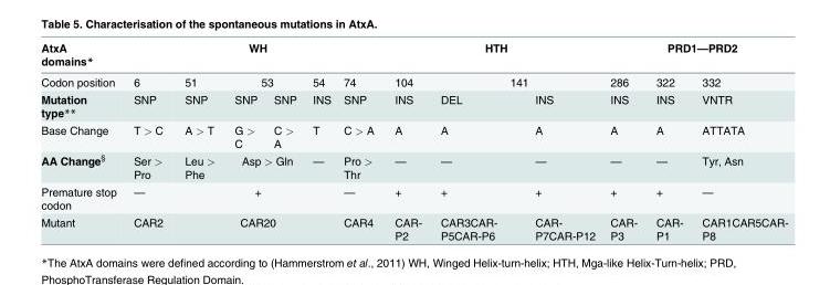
<table><thead><tr><td rowspan="3">AtxA domains* Codon position Mutation type**</td><td colspan="6">WH</td><td colspan="3">HTH</td><td colspan="3">PRD1—PRD2</td></tr><tr><td rowspan="2">6 SNP</td><td rowspan="2">51 SNP</td><td colspan="2">53</td><td rowspan="2">54 INS</td><td rowspan="2">74 SNP</td><td rowspan="2">104 INS</td><td colspan="2">141</td><td rowspan="2">286 INS</td><td rowspan="2">322 INS</td><td rowspan="2">332 VNTR</td></tr><tr><td>SNP</td><td>SNP</td><td>DEL</td><td>INS</td></tr></thead><tbody><tr><td>Base Change</td><td>T &gt; C</td><td>A &gt; T</td><td>G &gt; C</td><td>C &gt; A</td><td>T</td><td>C &gt; A</td><td>A</td><td>A</td><td>A</td><td>A</td><td>A</td><td>ATTATA</td></tr><tr><td>AA Change<sup>§</sup></td><td>Ser &gt; Pro</td><td>Leu &gt; Phe</td><td colspan="2">Asp &gt; Gln</td><td>—</td><td>Pro &gt; Thr</td><td>—</td><td>—</td><td>—</td><td>—</td><td>—</td><td>Tyr, Asn</td></tr><tr><td>Premature stop codon</td><td>—</td><td colspan="4">+</td><td>—</td><td>+</td><td>+</td><td>+</td><td>+</td><td>+</td><td>—</td></tr><tr><td>Mutant</td><td>CAR2</td><td colspan="4">CAR20</td><td>CAR4</td><td>CAR- P2</td><td>CAR3CAR- P5CAR-P6</td><td>CAR- P7CAR-P12</td><td>CAR- P3</td><td>CAR- P1</td><td>CAR1CAR5CAR- P8</td></tr></tbody></table>